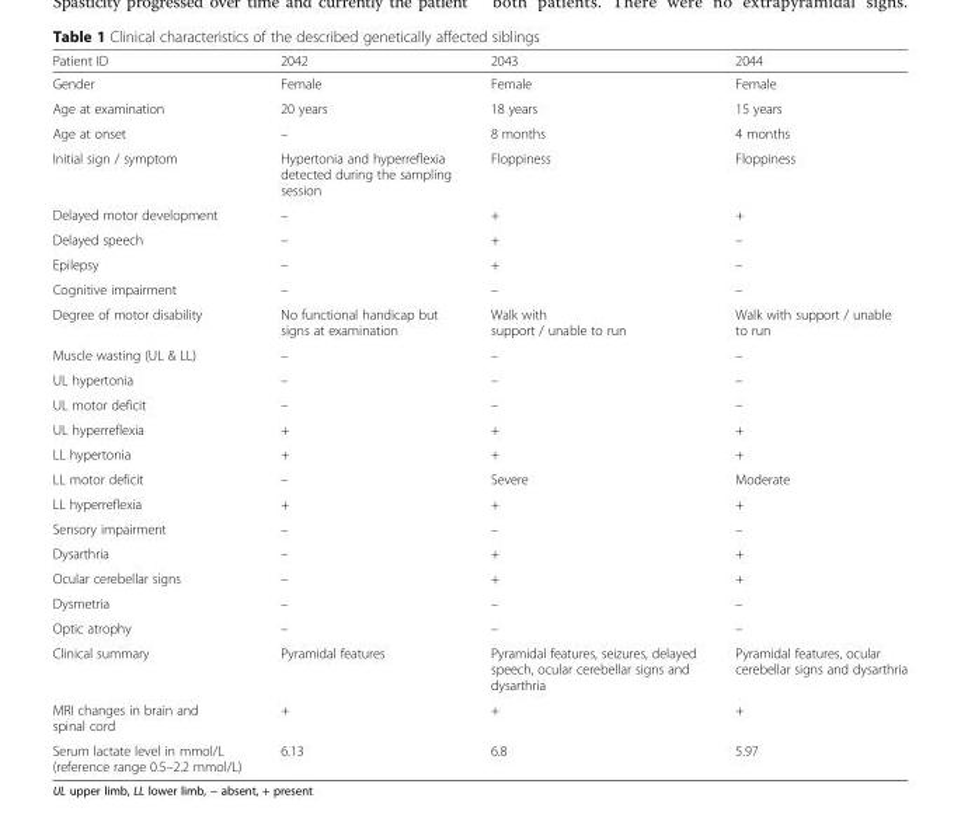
<table><thead><tr><td>Patient ID</td><td>2042</td><td>2043</td><td>2044</td></tr></thead><tbody><tr><td>Gender</td><td>Female</td><td>Female</td><td>Female</td></tr><tr><td>Age at examination</td><td>20 years</td><td>18 years</td><td>15 years</td></tr><tr><td>Age at onset</td><td>–</td><td>8 months</td><td>4 months</td></tr><tr><td>Initial sign / symptom</td><td>Hypertonia and hyperreflexia detected during the sampling session</td><td>Floppiness</td><td>Floppiness</td></tr><tr><td>Delayed motor development</td><td>–</td><td>+</td><td>+</td></tr><tr><td>Delayed speech</td><td>–</td><td>+</td><td>–</td></tr><tr><td>Epilepsy</td><td>–</td><td>+</td><td>–</td></tr><tr><td>Cognitive impairment</td><td>–</td><td>–</td><td>–</td></tr><tr><td>Degree of motor disability</td><td>No functional handicap but signs at examination</td><td>Walk with support / unable to run</td><td>Walk with support / unable to run</td></tr><tr><td>Muscle wasting (UL &amp; LL)</td><td>–</td><td>–</td><td>–</td></tr><tr><td>UL hypertonia</td><td>–</td><td>–</td><td>–</td></tr><tr><td>UL motor deficit</td><td>–</td><td>–</td><td>–</td></tr><tr><td>UL hyperreflexia</td><td>+</td><td>+</td><td>+</td></tr><tr><td>LL hypertonia</td><td>+</td><td>+</td><td>+</td></tr><tr><td>LL motor deficit</td><td>–</td><td>Severe</td><td>Moderate</td></tr><tr><td>LL hyperreflexia</td><td>+</td><td>+</td><td>+</td></tr><tr><td>Sensory impairment</td><td>–</td><td>–</td><td>–</td></tr><tr><td>Dysarthria</td><td>–</td><td>+</td><td>+</td></tr><tr><td>Ocular cerebellar signs</td><td>–</td><td>+</td><td>+</td></tr><tr><td>Dysmetria</td><td>–</td><td>–</td><td>–</td></tr><tr><td>Optic atrophy</td><td>–</td><td>–</td><td>–</td></tr><tr><td>Clinical summary</td><td>Pyramidal features</td><td>Pyramidal features, seizures, delayed speech, ocular cerebellar signs and dysarthria</td><td>Pyramidal features, ocular cerebellar signs and dysarthria</td></tr><tr><td>MRI changes in brain and spinal cord</td><td>+</td><td>+</td><td>+</td></tr><tr><td>Serum lactate level in mmol/L (reference range 0.5–2.2 mmol/L)</td><td>6.13</td><td>6.8</td><td>5.97</td></tr></tbody></table>